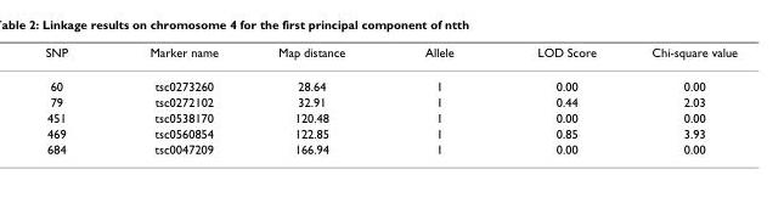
<table><thead><tr><td>SNP</td><td>Marker name</td><td>Map distance</td><td>Allele</td><td>LOD Score</td><td>Chi-square value</td></tr></thead><tbody><tr><td>60</td><td>tsc0273260</td><td>28.64</td><td>1</td><td>0.00</td><td>0.00</td></tr><tr><td>79</td><td>tsc0272102</td><td>32.91</td><td>1</td><td>0.44</td><td>2.03</td></tr><tr><td>451</td><td>tsc0538170</td><td>120.48</td><td>1</td><td>0.00</td><td>0.00</td></tr><tr><td>469</td><td>tsc0560854</td><td>122.85</td><td>1</td><td>0.85</td><td>3.93</td></tr><tr><td>684</td><td>tsc0047209</td><td>166.94</td><td>1</td><td>0.00</td><td>0.00</td></tr></tbody></table>